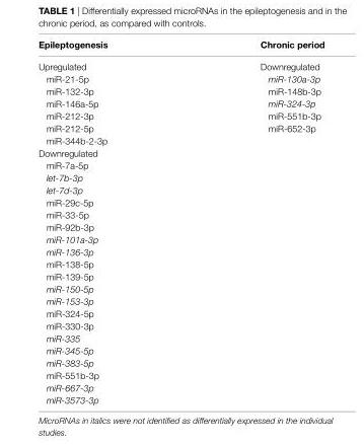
<table><thead><tr><td>epileptogenesis</td><td>Chronic period</td></tr></thead><tbody><tr><td>Upregulated</td><td>Downregulated</td></tr><tr><td>miR-21-5p</td><td>miR-130a-3p</td></tr><tr><td>miR-132-3p</td><td>miR-148b-3p</td></tr><tr><td>miR-146a-5p</td><td>miR-324-3p</td></tr><tr><td>miR-212-3p</td><td>miR-551b-3p</td></tr><tr><td>miR-212-5p</td><td>miR-652-3p</td></tr><tr><td colspan="2">miR-344b-2-3p</td></tr><tr><td colspan="2">Downregulated</td></tr><tr><td colspan="2">miR-7a-5p</td></tr><tr><td colspan="2">let-7b-3p</td></tr><tr><td colspan="2">let-7d-3p</td></tr><tr><td colspan="2">miR-29c-5p</td></tr><tr><td colspan="2">miR-33-5p</td></tr><tr><td colspan="2">miR-92b-3p</td></tr><tr><td colspan="2">miR-101a-3p</td></tr><tr><td colspan="2">miR-136-3p</td></tr><tr><td colspan="2">miR-138-5p</td></tr><tr><td colspan="2">miR-139-5p</td></tr><tr><td colspan="2">miR-150-5p</td></tr><tr><td colspan="2">miR-153-3p</td></tr><tr><td colspan="2">miR-324-5p</td></tr><tr><td colspan="2">miR-330-3p</td></tr><tr><td colspan="2">miR-335</td></tr><tr><td colspan="2">miR-345-5p</td></tr><tr><td colspan="2">miR-383-5p</td></tr><tr><td colspan="2">miR-551b-3p</td></tr><tr><td colspan="2">miR-667-3p</td></tr><tr><td>miR-3573-3p</td><td></td></tr></tbody></table>